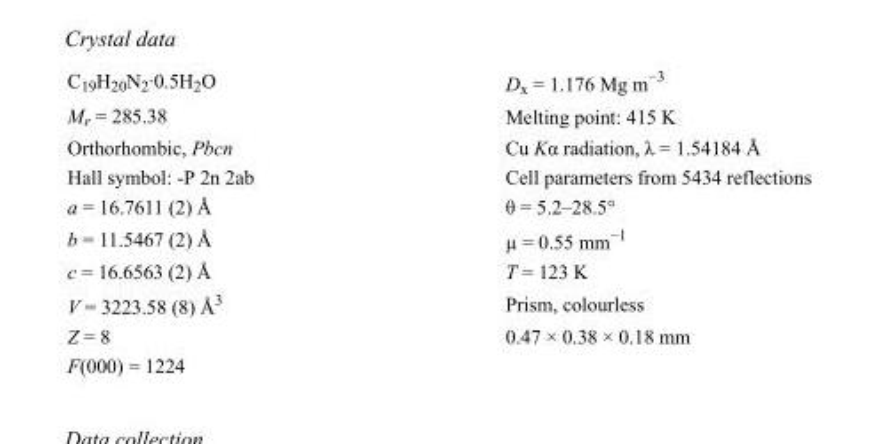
<table><tbody><tr><td>C<sub>19</sub>H<sub>20</sub>N<sub>2</sub>·0.5H<sub>2</sub>O</td><td>D<sub>x</sub> = 1.176 Mg m<sup>−3</sup></td></tr><tr><td>M<sub>r</sub> = 285.38</td><td>Melting point: 415 K</td></tr><tr><td>Orthorhombic, Pbcn</td><td>Cu Kα radiation, λ = 1.54184 Å</td></tr><tr><td>Hall symbol: -P 2n 2ab</td><td>Cell parameters from 5434 reflections</td></tr><tr><td>a = 16.7611 (2) Å</td><td>θ = 5.2–28.5°</td></tr><tr><td>b = 11.5467 (2) Å</td><td>µ = 0.55 mm<sup>−1</sup></td></tr><tr><td>c = 16.6563 (2) Å</td><td>T = 123 K</td></tr><tr><td>V = 3223.58 (8) Å<sup>3</sup></td><td>Prism, colourless</td></tr><tr><td>Z = 8</td><td>0.47 × 0.38 × 0.18 mm</td></tr><tr><td>F(000) = 1224</td><td></td></tr></tbody></table>